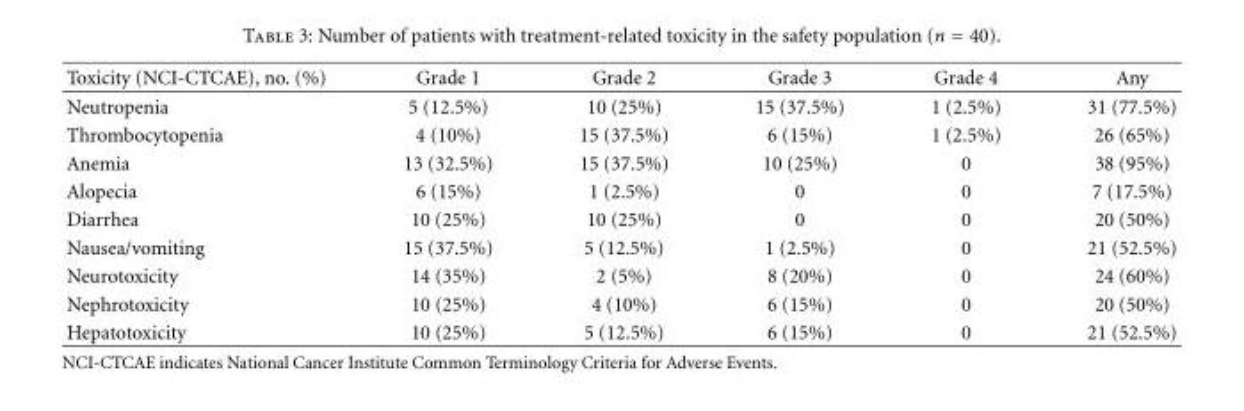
<table><thead><tr><td>Toxicity (NCI-CTCAE), no. (%)</td><td>Grade 1</td><td>Grade 2</td><td>Grade 3</td><td>Grade 4</td><td>Any</td></tr></thead><tbody><tr><td>Neutropenia</td><td>5 (12.5%)</td><td>10 (25%)</td><td>15 (37.5%)</td><td>1 (2.5%)</td><td>31 (77.5%)</td></tr><tr><td>Thrombocytopenia</td><td>4 (10%)</td><td>15 (37.5%)</td><td>6 (15%)</td><td>1 (2.5%)</td><td>26 (65%)</td></tr><tr><td>Anemia</td><td>13 (32.5%)</td><td>15 (37.5%)</td><td>10 (25%)</td><td>0</td><td>38 (95%)</td></tr><tr><td>Alopecia</td><td>6 (15%)</td><td>1 (2.5%)</td><td>0</td><td>0</td><td>7 (17.5%)</td></tr><tr><td>Diarrhea</td><td>10 (25%)</td><td>10 (25%)</td><td>0</td><td>0</td><td>20 (50%)</td></tr><tr><td>Nausea/vomiting</td><td>15 (37.5%)</td><td>5 (12.5%)</td><td>1 (2.5%)</td><td>0</td><td>21 (52.5%)</td></tr><tr><td>Neurotoxicity</td><td>14 (35%)</td><td>2 (5%)</td><td>8 (20%)</td><td>0</td><td>24 (60%)</td></tr><tr><td>Nephrotoxicity</td><td>10 (25%)</td><td>4 (10%)</td><td>6 (15%)</td><td>0</td><td>20 (50%)</td></tr><tr><td>Hepatotoxicity</td><td>10 (25%)</td><td>5 (12.5%)</td><td>6 (15%)</td><td>0</td><td>21 (52.5%)</td></tr></tbody></table>